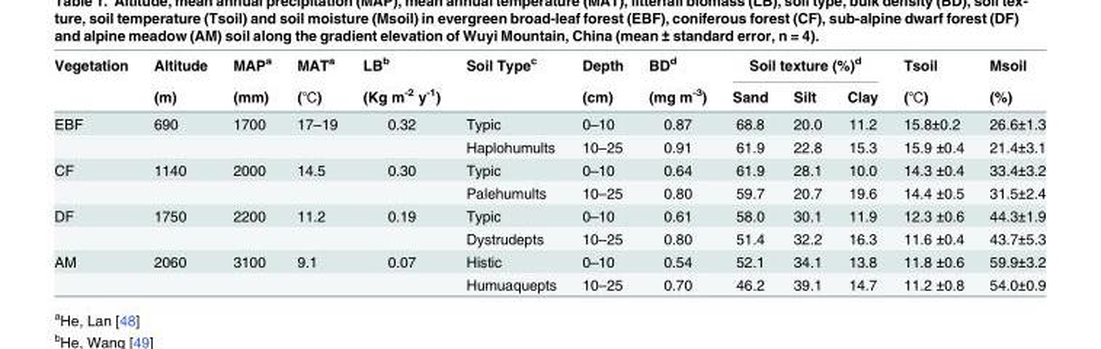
<table><thead><tr><td rowspan="2">Vegetation</td><td rowspan="2">Altitude (m)</td><td rowspan="2">MAP<sup>a</sup> (mm)</td><td rowspan="2">MAT<sup>a</sup> (℃)</td><td rowspan="2">LB<sup>b</sup> (Kg m<sup>-2</sup> y<sup>-1</sup>)</td><td rowspan="2">Soil Type<sup>c</sup></td><td rowspan="2">Depth (cm)</td><td rowspan="2">BD<sup>d</sup> (mg m<sup>-3</sup>)</td><td colspan="3">Soil texture (%)<sup>d</sup></td><td rowspan="2">Tsoil (℃)</td><td rowspan="2">Msoil (%)</td></tr><tr><td>Sand</td><td>Silt</td><td>Clay</td></tr></thead><tbody><tr><td rowspan="2">EBF</td><td>690</td><td>1700</td><td>17–19</td><td>0.32</td><td>Typic</td><td>0–10</td><td>0.87</td><td>68.8</td><td>20.0</td><td>11.2</td><td>15.8±0.2</td><td>26.6±1.3</td></tr><tr><td></td><td></td><td></td><td></td><td>Haplohumults</td><td>10–25</td><td>0.91</td><td>61.9</td><td>22.8</td><td>15.3</td><td>15.9 ±0.4</td><td>21.4±3.1</td></tr><tr><td rowspan="2">CF</td><td>1140</td><td>2000</td><td>14.5</td><td>0.30</td><td>Typic</td><td>0–10</td><td>0.64</td><td>61.9</td><td>28.1</td><td>10.0</td><td>14.3 ±0.4</td><td>33.4±3.2</td></tr><tr><td></td><td></td><td></td><td></td><td>Palehumults</td><td>10–25</td><td>0.80</td><td>59.7</td><td>20.7</td><td>19.6</td><td>14.4 ±0.5</td><td>31.5±2.4</td></tr><tr><td rowspan="2">DF</td><td>1750</td><td>2200</td><td>11.2</td><td>0.19</td><td>Typic</td><td>0–10</td><td>0.61</td><td>58.0</td><td>30.1</td><td>11.9</td><td>12.3 ±0.6</td><td>44.3±1.9</td></tr><tr><td></td><td></td><td></td><td></td><td>Dystrudepts</td><td>10–25</td><td>0.80</td><td>51.4</td><td>32.2</td><td>16.3</td><td>11.6 ±0.4</td><td>43.7±5.3</td></tr><tr><td rowspan="2">AM</td><td>2060</td><td>3100</td><td>9.1</td><td>0.07</td><td>Histic</td><td>0–10</td><td>0.54</td><td>52.1</td><td>34.1</td><td>13.8</td><td>11.8 ±0.6</td><td>59.9±3.2</td></tr><tr><td></td><td></td><td></td><td></td><td>Humuaquepts</td><td>10–25</td><td>0.70</td><td>46.2</td><td>39.1</td><td>14.7</td><td>11.2 ±0.8</td><td>54.0±0.9</td></tr></tbody></table>